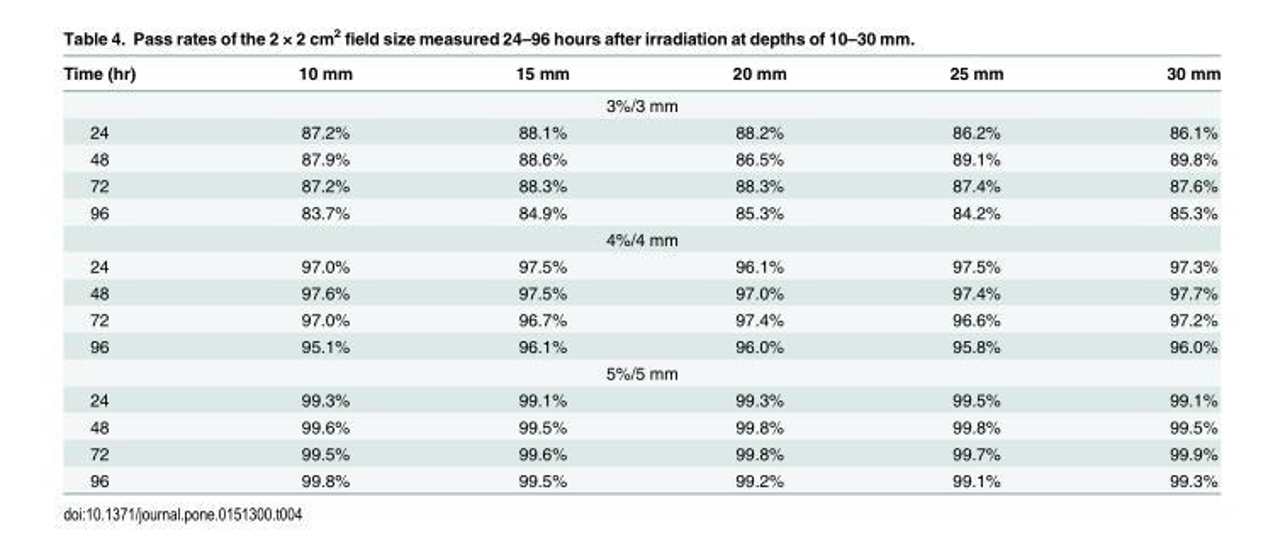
<table><thead><tr><td>Time (hr)</td><td>10 mm</td><td>15 mm</td><td>20 mm</td><td>25 mm</td><td>30 mm</td></tr></thead><tbody><tr><td colspan="6">3%/3 mm</td></tr><tr><td>24</td><td>87.2%</td><td>88.1%</td><td>88.2%</td><td>86.2%</td><td>86.1%</td></tr><tr><td>48</td><td>87.9%</td><td>88.6%</td><td>86.5%</td><td>89.1%</td><td>89.8%</td></tr><tr><td>72</td><td>87.2%</td><td>88.3%</td><td>88.3%</td><td>87.4%</td><td>87.6%</td></tr><tr><td>96</td><td>83.7%</td><td>84.9%</td><td>85.3%</td><td>84.2%</td><td>85.3%</td></tr><tr><td colspan="6">4%/4 mm</td></tr><tr><td>24</td><td>97.0%</td><td>97.5%</td><td>96.1%</td><td>97.5%</td><td>97.3%</td></tr><tr><td>48</td><td>97.6%</td><td>97.5%</td><td>97.0%</td><td>97.4%</td><td>97.7%</td></tr><tr><td>72</td><td>97.0%</td><td>96.7%</td><td>97.4%</td><td>96.6%</td><td>97.2%</td></tr><tr><td>96</td><td>95.1%</td><td>96.1%</td><td>96.0%</td><td>95.8%</td><td>96.0%</td></tr><tr><td colspan="6">5%/5 mm</td></tr><tr><td>24</td><td>99.3%</td><td>99.1%</td><td>99.3%</td><td>99.5%</td><td>99.1%</td></tr><tr><td>48</td><td>99.6%</td><td>99.5%</td><td>99.8%</td><td>99.8%</td><td>99.5%</td></tr><tr><td>72</td><td>99.5%</td><td>99.6%</td><td>99.8%</td><td>99.7%</td><td>99.9%</td></tr><tr><td>96</td><td>99.8%</td><td>99.5%</td><td>99.2%</td><td>99.1%</td><td>99.3%</td></tr></tbody></table>